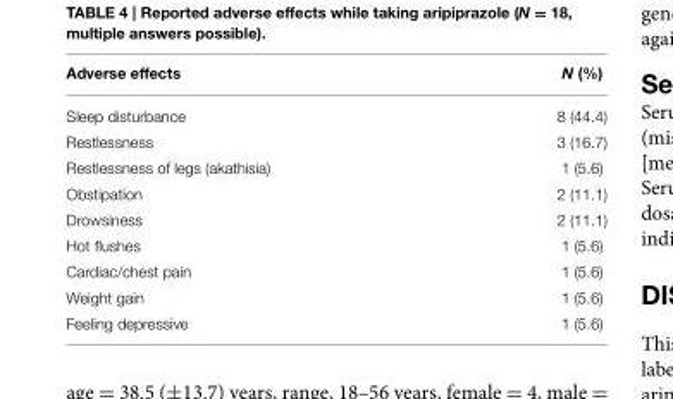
<table><thead><tr><td>Adverse effects</td><td>N (%)</td></tr></thead><tbody><tr><td>Sleep disturbance</td><td>8 (44.4)</td></tr><tr><td>Restlessness</td><td>3 (16.7)</td></tr><tr><td>Restlessness of legs (akathisia)</td><td>1 (5.6)</td></tr><tr><td>Obstipation</td><td>2 (11.1)</td></tr><tr><td>Drowsiness</td><td>2 (11.1)</td></tr><tr><td>Hot flushes</td><td>1 (5.6)</td></tr><tr><td>Cardiac/chest pain</td><td>1 (5.6)</td></tr><tr><td>Weight gain</td><td>1 (5.6)</td></tr><tr><td>Feeling depressive</td><td>1 (5.6)</td></tr></tbody></table>